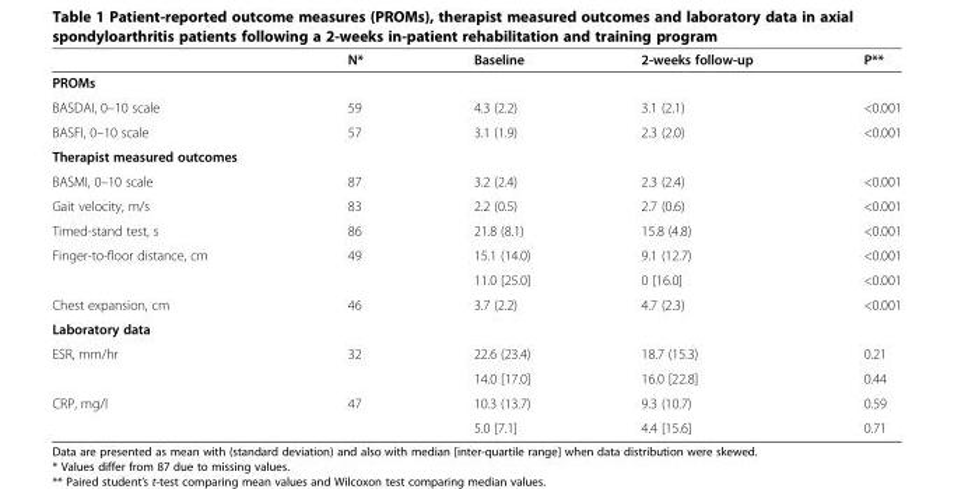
<table><thead><tr><td></td><td>N*</td><td>Baseline</td><td>2-weeks follow-up</td><td>P**</td></tr></thead><tbody><tr><td colspan="5">PROMs</td></tr><tr><td>BASDAI, 0–10 scale</td><td>59</td><td>4.3 (2.2)</td><td>3.1 (2.1)</td><td>&lt;0.001</td></tr><tr><td>BASFI, 0–10 scale</td><td>57</td><td>3.1 (1.9)</td><td>2.3 (2.0)</td><td>&lt;0.001</td></tr><tr><td colspan="5">Therapist measured outcomes</td></tr><tr><td>BASMI, 0–10 scale</td><td>87</td><td>3.2 (2.4)</td><td>2.3 (2.4)</td><td>&lt;0.001</td></tr><tr><td>Gait velocity, m/s</td><td>83</td><td>2.2 (0.5)</td><td>2.7 (0.6)</td><td>&lt;0.001</td></tr><tr><td>Timed-stand test, s</td><td>86</td><td>21.8 (8.1)</td><td>15.8 (4.8)</td><td>&lt;0.001</td></tr><tr><td rowspan="2">Finger-to-floor distance, cm</td><td rowspan="2">49</td><td>15.1 (14.0)</td><td>9.1 (12.7)</td><td>&lt;0.001</td></tr><tr><td>11.0 [25.0]</td><td>0 [16.0]</td><td>&lt;0.001</td></tr><tr><td>Chest expansion, cm</td><td>46</td><td>3.7 (2.2)</td><td>4.7 (2.3)</td><td>&lt;0.001</td></tr><tr><td colspan="5">Laboratory data</td></tr><tr><td rowspan="2">ESR, mm/hr</td><td rowspan="2">32</td><td>22.6 (23.4)</td><td>18.7 (15.3)</td><td>0.21</td></tr><tr><td>14.0 [17.0]</td><td>16.0 [22.8]</td><td>0.44</td></tr><tr><td rowspan="2">CRP, mg/l</td><td rowspan="2">47</td><td>10.3 (13.7)</td><td>9.3 (10.7)</td><td>0.59</td></tr><tr><td>5.0 [7.1]</td><td>4.4 [15.6]</td><td>0.71</td></tr></tbody></table>